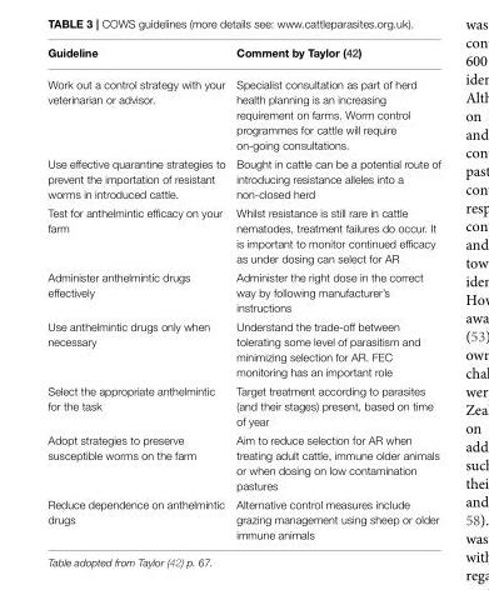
<table><thead><tr><td>Guideline</td><td>Comment by Taylor (42)</td></tr></thead><tbody><tr><td>Work out a control strategy with your veterinarian or advisor.</td><td>Specialist consultation as part of herd health planning is an increasing requirement on farms. Worm control programmes for cattle will require on-going consultations.</td></tr><tr><td>Use effective quarantine strategies to prevent the importation of resistant worms in introduced cattle.</td><td>Bought in cattle can be a potential route of introducing resistance alleles into a non-closed herd</td></tr><tr><td>Test for anthelmintic efficacy on your farm</td><td>Whilst resistance is still rare in cattle nematodes, treatment failures do occur. It is important to monitor continued efficacy as under dosing can select for AR</td></tr><tr><td>Administer anthelmintic drugs effectively</td><td>Administer the right dose in the correct way by following manufacturer’s instructions</td></tr><tr><td>Use anthelmintic drugs only when necessary</td><td>Understand the trade-off between tolerating some level of parasitism and minimizing selection for AR. FEC monitoring has an important role</td></tr><tr><td>Select the appropriate anthelmintic for the task</td><td>Target treatment according to parasites (and their stages) present, based on time of year</td></tr><tr><td>Adopt strategies to preserve susceptible worms on the farm</td><td>Aim to reduce selection for AR when treating adult cattle, immune older animals or when dosing on low contamination pastures</td></tr><tr><td>Reduce dependence on anthelmintic drugs</td><td>Alternative control measures include grazing management using sheep or older immune animals</td></tr></tbody></table>